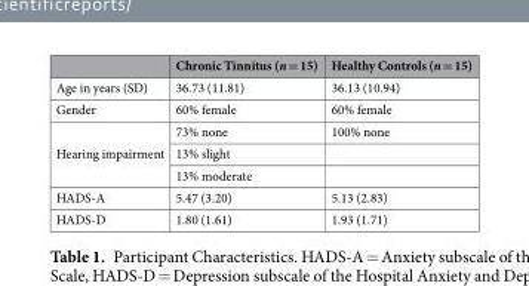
<table><thead><tr><td></td><td>Chronic Tinnitus (n = 15)</td><td>Healthy Controls (n = 15)</td></tr></thead><tbody><tr><td>Age in years (SD)</td><td>36.73 (11.81)</td><td>36.13 (10.94)</td></tr><tr><td>Gender</td><td>60% female</td><td>60% female</td></tr><tr><td rowspan="3">Hearing impairment</td><td>73% none</td><td>100% none</td></tr><tr><td>13% slight</td><td></td></tr><tr><td>13% moderate</td><td></td></tr><tr><td>HADS-A</td><td>5.47 (3.20)</td><td>5.13 (2.83)</td></tr><tr><td>HADS-D</td><td>1.80 (1.61)</td><td>1.93 (1.71)</td></tr></tbody></table>